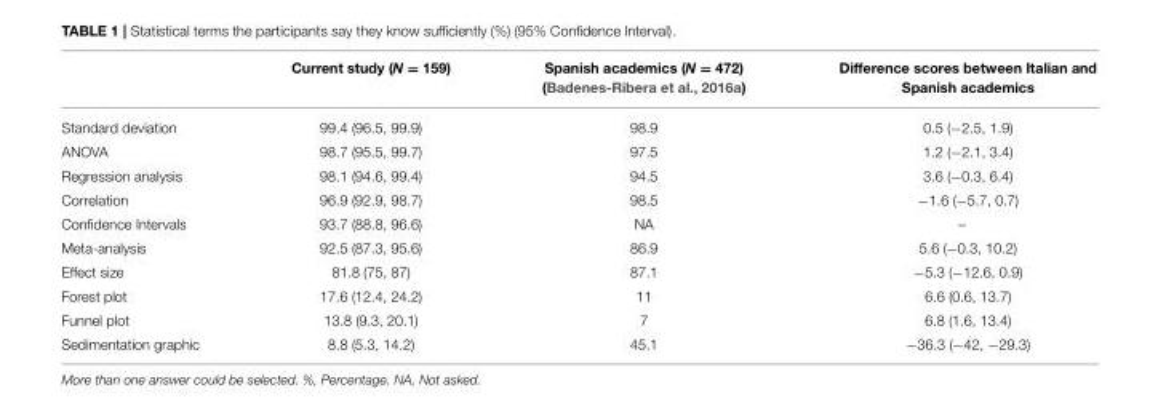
<table><thead><tr><td></td><td>Current study (N = 159)</td><td>Spanish academics (N = 472) (Badenes-Ribera et al., 2016a)</td><td>Difference scores between Italian and Spanish academics</td></tr></thead><tbody><tr><td>Standard deviation</td><td>99.4 (96.5, 99.9)</td><td>98.9</td><td>0.5 (−2.5, 1.9)</td></tr><tr><td>ANOVA</td><td>98.7 (95.5, 99.7)</td><td>97.5</td><td>1.2 (−2.1, 3.4)</td></tr><tr><td>Regression analysis</td><td>98.1 (94.6, 99.4)</td><td>94.5</td><td>3.6 (−0.3, 6.4)</td></tr><tr><td>Correlation</td><td>96.9 (92.9, 98.7)</td><td>98.5</td><td>−1.6 (−5.7, 0.7)</td></tr><tr><td>Confidence Intervals</td><td>93.7 (88.8, 96.6)</td><td>NA</td><td>–</td></tr><tr><td>Meta-analysis</td><td>92.5 (87.3, 95.6)</td><td>86.9</td><td>5.6 (−0.3, 10.2)</td></tr><tr><td>Effect size</td><td>81.8 (75, 87)</td><td>87.1</td><td>−5.3 (−12.6, 0.9)</td></tr><tr><td>Forest plot</td><td>17.6 (12.4, 24.2)</td><td>11</td><td>6.6 (0.6, 13.7)</td></tr><tr><td>Funnel plot</td><td>13.8 (9.3, 20.1)</td><td>7</td><td>6.8 (1.6, 13.4)</td></tr><tr><td>Sedimentation graphic</td><td>8.8 (5.3, 14.2)</td><td>45.1</td><td>−36.3 (−42, −29.3)</td></tr></tbody></table>